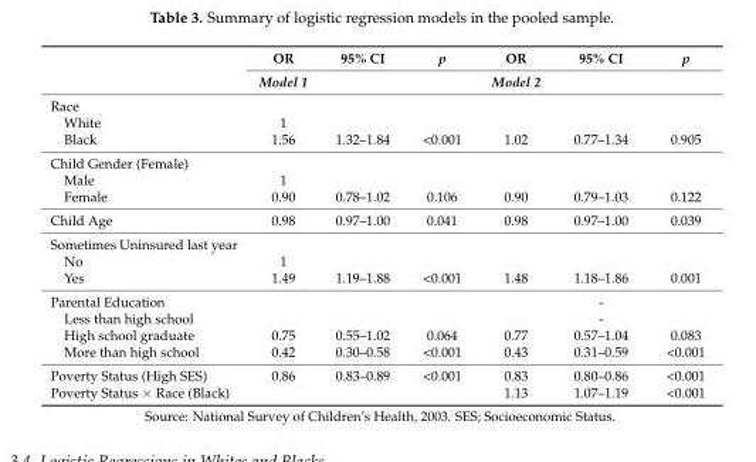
<table><thead><tr><td rowspan="2"></td><td rowspan="2">OR Model 1</td><td rowspan="2">95% CI</td><td rowspan="2">p</td><td rowspan="2">OR Model 2</td><td rowspan="2">95% CI</td><td rowspan="2">p</td></tr><tr></tr></thead><tbody><tr><td colspan="7">Race</td></tr><tr><td>White</td><td>1</td><td></td><td></td><td></td><td></td><td></td></tr><tr><td>Black</td><td>1.56</td><td>1.32–1.84</td><td>&lt;0.001</td><td>1.02</td><td>0.77–1.34</td><td>0.905</td></tr><tr><td colspan="7">Child Gender (Female)</td></tr><tr><td>Male</td><td>1</td><td></td><td></td><td></td><td></td><td></td></tr><tr><td>Female</td><td>0.90</td><td>0.78–1.02</td><td>0.106</td><td>0.90</td><td>0.79–1.03</td><td>0.122</td></tr><tr><td>Child Age</td><td>0.98</td><td>0.97–1.00</td><td>0.041</td><td>0.98</td><td>0.97–1.00</td><td>0.039</td></tr><tr><td colspan="7">Sometimes Uninsured last year</td></tr><tr><td>No</td><td>1</td><td></td><td></td><td></td><td></td><td></td></tr><tr><td>Yes</td><td>1.49</td><td>1.19–1.88</td><td>&lt;0.001</td><td>1.48</td><td>1.18–1.86</td><td>0.001</td></tr><tr><td>Parental Education</td><td></td><td></td><td></td><td></td><td>-</td><td></td></tr><tr><td>Less than high school</td><td></td><td></td><td></td><td></td><td>-</td><td></td></tr><tr><td>High school graduate</td><td>0.75</td><td>0.55–1.02</td><td>0.064</td><td>0.77</td><td>0.57–1.04</td><td>0.083</td></tr><tr><td>More than high school</td><td>0.42</td><td>0.30–0.58</td><td>&lt;0.001</td><td>0.43</td><td>0.31–0.59</td><td>&lt;0.001</td></tr><tr><td>Poverty Status (High SES)</td><td>0.86</td><td>0.83–0.89</td><td>&lt;0.001</td><td>0.83</td><td>0.80–0.86</td><td>&lt;0.001</td></tr><tr><td>Poverty Status × Race (Black)</td><td></td><td></td><td></td><td>1.13</td><td>1.07–1.19</td><td>&lt;0.001</td></tr></tbody></table>